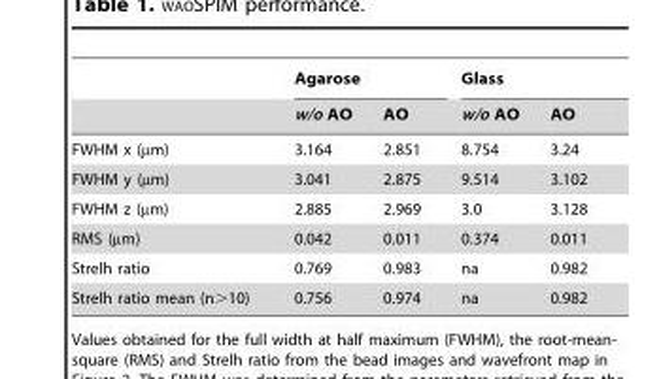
<table><thead><tr><td rowspan="2"></td><td colspan="2">Agarose</td><td colspan="2">Glass</td></tr><tr><td>w/o AO</td><td>AO</td><td>w/o AO</td><td>AO</td></tr></thead><tbody><tr><td>FWHM x (µm)</td><td>3.164</td><td>2.851</td><td>8.754</td><td>3.24</td></tr><tr><td>FWHM y (µm)</td><td>3.041</td><td>2.875</td><td>9.514</td><td>3.102</td></tr><tr><td>FWHM z (µm)</td><td>2.885</td><td>2.969</td><td>3.0</td><td>3.128</td></tr><tr><td>RMS (µm)</td><td>0.042</td><td>0.011</td><td>0.374</td><td>0.011</td></tr><tr><td>Strelh ratio</td><td>0.769</td><td>0.983</td><td>na</td><td>0.982</td></tr><tr><td>Strelh ratio mean (n&gt;10)</td><td>0.756</td><td>0.974</td><td>na</td><td>0.982</td></tr></tbody></table>